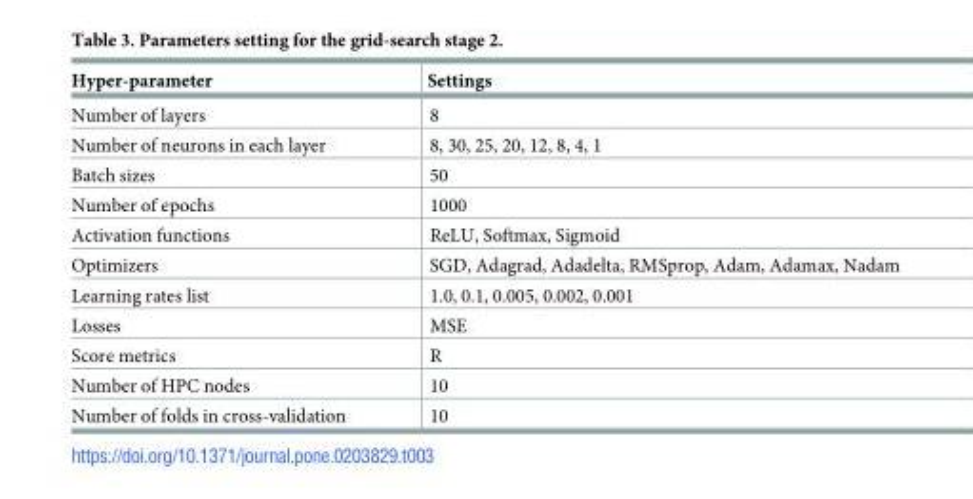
<table><thead><tr><td>Hyper-parameter</td><td>Settings</td></tr></thead><tbody><tr><td>Number of layers</td><td>8</td></tr><tr><td>Number of neurons in each layer</td><td>8, 30, 25, 20, 12, 8, 4, 1</td></tr><tr><td>Batch sizes</td><td>50</td></tr><tr><td>Number of epochs</td><td>1000</td></tr><tr><td>Activation functions</td><td>ReLU, Softmax, Sigmoid</td></tr><tr><td>Optimizers</td><td>SGD, Adagrad, Adadelta, RMSprop, Adam, Adamax, Nadam</td></tr><tr><td>Learning rates list</td><td>1.0, 0.1, 0.005, 0.002, 0.001</td></tr><tr><td>Losses</td><td>MSE</td></tr><tr><td>Score metrics</td><td>R</td></tr><tr><td>Number of HPC nodes</td><td>10</td></tr><tr><td>Number of folds in cross-validation</td><td>10</td></tr></tbody></table>